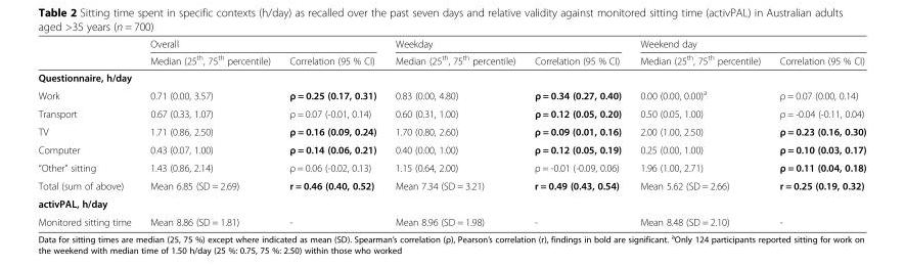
<table><thead><tr><td rowspan="2"></td><td colspan="2">Overall</td><td colspan="2">Weekday</td><td colspan="2">Weekend day</td></tr><tr><td>Median (25<sup>th</sup>, 75<sup>th</sup> percentile)</td><td>Correlation (95 % CI)</td><td>Median (25<sup>th</sup>, 75<sup>th</sup> percentile)</td><td>Correlation (95 % CI)</td><td>Median (25<sup>th</sup>, 75<sup>th</sup> percentile)</td><td>Correlation (95 % CI)</td></tr></thead><tbody><tr><td colspan="7">Questionnaire, h/day</td></tr><tr><td>Work</td><td>0.71 (0.00, 3.57)</td><td>ρ = 0.25 (0.17, 0.31)</td><td>0.83 (0.00, 4.80)</td><td>ρ = 0.34 (0.27, 0.40)</td><td>0.00 (0.00, 0.00)<sup>a</sup></td><td>ρ = 0.07 (0.00, 0.14)</td></tr><tr><td>Transport</td><td>0.67 (0.33, 1.07)</td><td>ρ = 0.07 (-0.01, 0.14)</td><td>0.60 (0.31, 1.00)</td><td>ρ = 0.12 (0.05, 0.20)</td><td>0.50 (0.05, 1.00)</td><td>ρ = -0.04 (-0.11, 0.04)</td></tr><tr><td>TV</td><td>1.71 (0.86, 2.50)</td><td>ρ = 0.16 (0.09, 0.24)</td><td>1.70 (0.80, 2.60)</td><td>ρ = 0.09 (0.01, 0.16)</td><td>2.00 (1.00, 2.50)</td><td>ρ = 0.23 (0.16, 0.30)</td></tr><tr><td>Computer</td><td>0.43 (0.07, 1.00)</td><td>ρ = 0.14 (0.06, 0.21)</td><td>0.40 (0.00, 1.00)</td><td>ρ = 0.12 (0.05, 0.19)</td><td>0.25 (0.00, 1.00)</td><td>ρ = 0.10 (0.03, 0.17)</td></tr><tr><td>“Other” sitting</td><td>1.43 (0.86, 2.14)</td><td>ρ = 0.06 (-0.02, 0.13)</td><td>1.15 (0.64, 2.00)</td><td>ρ = -0.01 (-0.09, 0.06)</td><td>1.96 (1.00, 2.71)</td><td>ρ = 0.11 (0.04, 0.18)</td></tr><tr><td>Total (sum of above)</td><td>Mean 6.85 (SD = 2.69)</td><td>r = 0.46 (0.40, 0.52)</td><td>Mean 7.34 (SD = 3.21)</td><td>r = 0.49 (0.43, 0.54)</td><td>Mean 5.62 (SD = 2.66)</td><td>r = 0.25 (0.19, 0.32)</td></tr><tr><td colspan="7">activPAL, h/day</td></tr><tr><td>Monitored sitting time</td><td>Mean 8.86 (SD = 1.81)</td><td>-</td><td>Mean 8.96 (SD = 1.98)</td><td>-</td><td>Mean 8.48 (SD = 2.10)</td><td>-</td></tr></tbody></table>